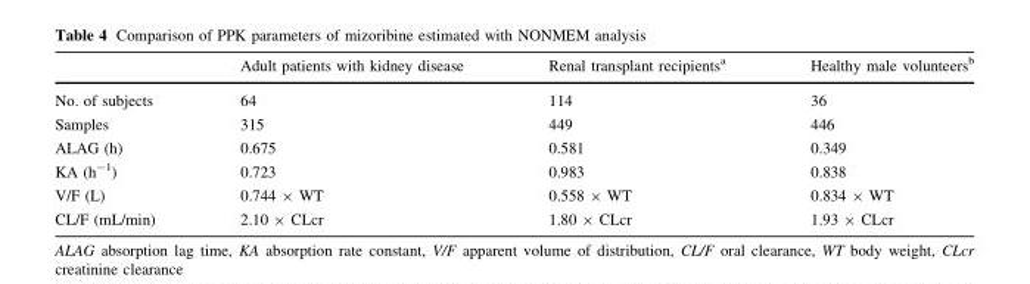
<table><thead><tr><td></td><td>Adult patients with kidney disease</td><td>Renal transplant recipients<sup>a</sup></td><td>Healthy male volunteers<sup>b</sup></td></tr></thead><tbody><tr><td>No. of subjects</td><td>64</td><td>114</td><td>36</td></tr><tr><td>Samples</td><td>315</td><td>449</td><td>446</td></tr><tr><td>ALAG (h)</td><td>0.675</td><td>0.581</td><td>0.349</td></tr><tr><td>KA (h<sup>-1</sup>)</td><td>0.723</td><td>0.983</td><td>0.838</td></tr><tr><td>V/F (L)</td><td>0.744 × WT</td><td>0.558 × WT</td><td>0.834 × WT</td></tr><tr><td>CL/F (mL/min)</td><td>2.10 × CLcr</td><td>1.80 × CLcr</td><td>1.93 × CLcr</td></tr></tbody></table>